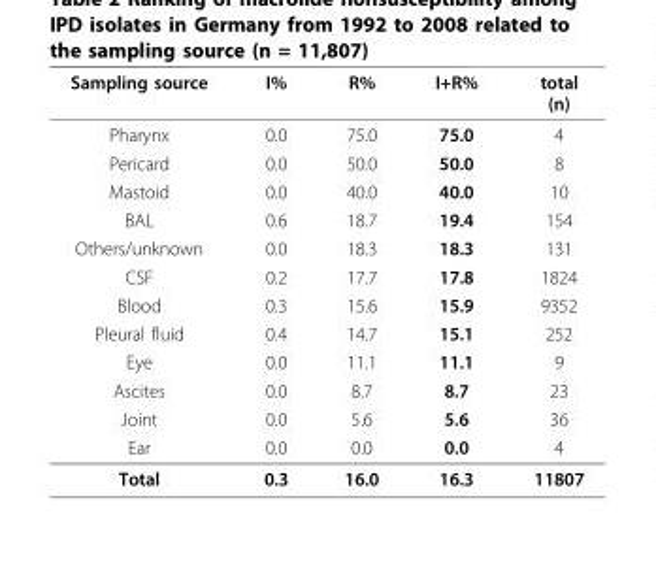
<table><thead><tr><td>Sampling source</td><td>I%</td><td>R%</td><td>I+R%</td><td>total (n)</td></tr></thead><tbody><tr><td>Pharynx</td><td>0.0</td><td>75.0</td><td>75.0</td><td>4</td></tr><tr><td>Pericard</td><td>0.0</td><td>50.0</td><td>50.0</td><td>8</td></tr><tr><td>Mastoid</td><td>0.0</td><td>40.0</td><td>40.0</td><td>10</td></tr><tr><td>BAL</td><td>0.6</td><td>18.7</td><td>19.4</td><td>154</td></tr><tr><td>Others/unknown</td><td>0.0</td><td>18.3</td><td>18.3</td><td>131</td></tr><tr><td>CSF</td><td>0.2</td><td>17.7</td><td>17.8</td><td>1824</td></tr><tr><td>Blood</td><td>0.3</td><td>15.6</td><td>15.9</td><td>9352</td></tr><tr><td>Pleural fluid</td><td>0.4</td><td>14.7</td><td>15.1</td><td>252</td></tr><tr><td>Eye</td><td>0.0</td><td>11.1</td><td>11.1</td><td>9</td></tr><tr><td>Ascites</td><td>0.0</td><td>8.7</td><td>8.7</td><td>23</td></tr><tr><td>Joint</td><td>0.0</td><td>5.6</td><td>5.6</td><td>36</td></tr><tr><td>Ear</td><td>0.0</td><td>0.0</td><td>0.0</td><td>4</td></tr><tr><td>Total</td><td>0.3</td><td>16.0</td><td>16.3</td><td>11807</td></tr></tbody></table>